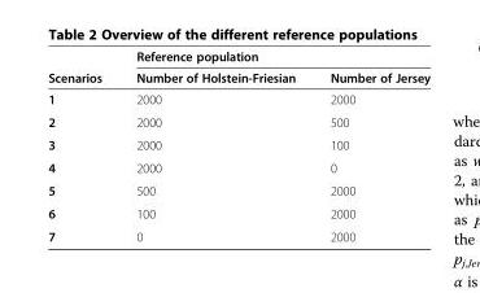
<table><thead><tr><td rowspan="2">Scenarios</td><td colspan="2">Reference population</td></tr><tr><td>Number of Holstein-Friesian</td><td>Number of Jersey</td></tr></thead><tbody><tr><td>1</td><td>2000</td><td>2000</td></tr><tr><td>2</td><td>2000</td><td>500</td></tr><tr><td>3</td><td>2000</td><td>100</td></tr><tr><td>4</td><td>2000</td><td>0</td></tr><tr><td>5</td><td>500</td><td>2000</td></tr><tr><td>6</td><td>100</td><td>2000</td></tr><tr><td>7</td><td>0</td><td>2000</td></tr></tbody></table>